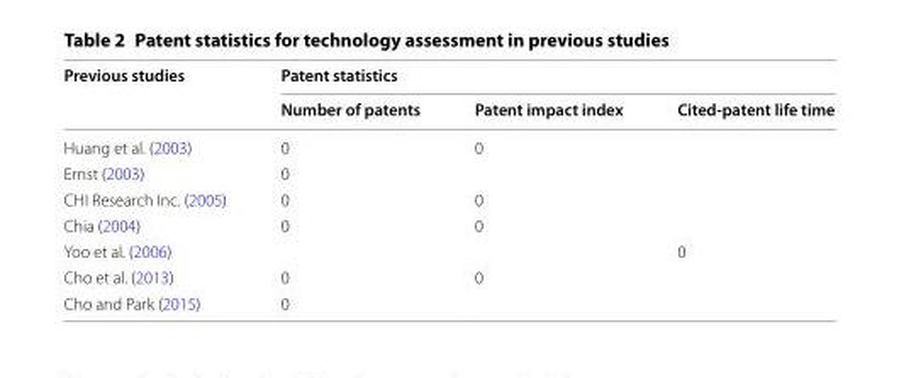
<table><thead><tr><td rowspan="2">Previous studies</td><td colspan="3">Patent statistics</td></tr><tr><td>Number of patents</td><td>Patent impact index</td><td>Cited-patent life time</td></tr></thead><tbody><tr><td>Huang et al. (2003)</td><td>0</td><td>0</td><td></td></tr><tr><td>Ernst (2003)</td><td>0</td><td></td><td></td></tr><tr><td>CHI Research Inc. (2005)</td><td>0</td><td>0</td><td></td></tr><tr><td>Chia (2004)</td><td>0</td><td>0</td><td></td></tr><tr><td>Yoo et al. (2006)</td><td></td><td></td><td>0</td></tr><tr><td>Cho et al. (2013)</td><td>0</td><td>0</td><td></td></tr><tr><td>Cho and Park (2015)</td><td>0</td><td></td><td></td></tr></tbody></table>